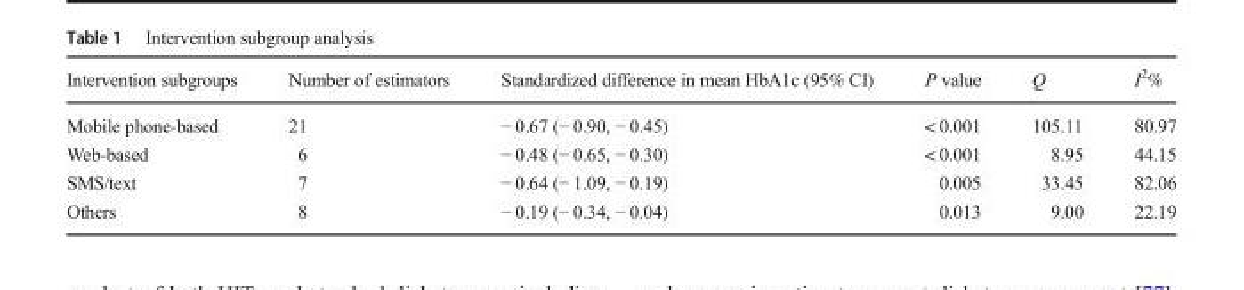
<table><thead><tr><td>Intervention subgroups</td><td>Number of estimators</td><td>Standardized difference in mean HbA1c (95% CI)</td><td>P value</td><td>Q</td><td>I<sup>2</sup>%</td></tr></thead><tbody><tr><td>Mobile phone-based</td><td>21</td><td>− 0.67 (− 0.90, − 0.45)</td><td>&lt; 0.001</td><td>105.11</td><td>80.97</td></tr><tr><td>Web-based</td><td>6</td><td>− 0.48 (− 0.65, − 0.30)</td><td>&lt; 0.001</td><td>8.95</td><td>44.15</td></tr><tr><td>SMS/text</td><td>7</td><td>− 0.64 (− 1.09, − 0.19)</td><td>0.005</td><td>33.45</td><td>82.06</td></tr><tr><td>Others</td><td>8</td><td>− 0.19 (− 0.34, − 0.04)</td><td>0.013</td><td>9.00</td><td>22.19</td></tr></tbody></table>